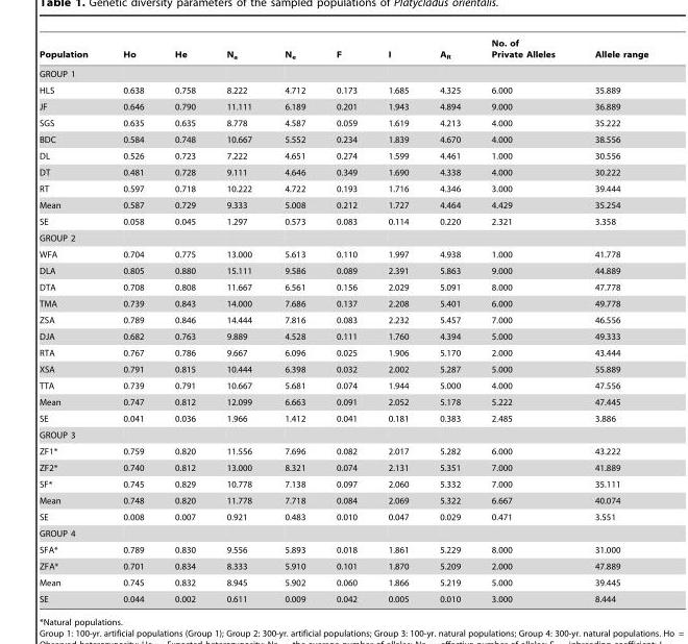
<table><thead><tr><td>Population</td><td>Ho</td><td>He</td><td>N<sub>a</sub></td><td>N<sub>e</sub></td><td>F</td><td>I</td><td>A<sub>R</sub></td><td>No. of Private Alleles</td><td>Allele range</td></tr></thead><tbody><tr><td colspan="10">GROUP 1</td></tr><tr><td>HLS</td><td>0.638</td><td>0.758</td><td>8.222</td><td>4.712</td><td>0.173</td><td>1.685</td><td>4.325</td><td>6.000</td><td>35.889</td></tr><tr><td>JF</td><td>0.646</td><td>0.790</td><td>11.111</td><td>6.189</td><td>0.201</td><td>1.943</td><td>4.894</td><td>9.000</td><td>36.889</td></tr><tr><td>SGS</td><td>0.635</td><td>0.635</td><td>8.778</td><td>4.587</td><td>0.059</td><td>1.619</td><td>4.213</td><td>4.000</td><td>35.222</td></tr><tr><td>BDC</td><td>0.584</td><td>0.748</td><td>10.667</td><td>5.552</td><td>0.234</td><td>1.839</td><td>4.670</td><td>4.000</td><td>38.556</td></tr><tr><td>DL</td><td>0.526</td><td>0.723</td><td>7.222</td><td>4.651</td><td>0.274</td><td>1.599</td><td>4.461</td><td>1.000</td><td>30.556</td></tr><tr><td>DT</td><td>0.481</td><td>0.728</td><td>9.111</td><td>4.646</td><td>0.349</td><td>1.690</td><td>4.338</td><td>4.000</td><td>30.222</td></tr><tr><td>RT</td><td>0.597</td><td>0.718</td><td>10.222</td><td>4.722</td><td>0.193</td><td>1.716</td><td>4.346</td><td>3.000</td><td>39.444</td></tr><tr><td>Mean</td><td>0.587</td><td>0.729</td><td>9.333</td><td>5.008</td><td>0.212</td><td>1.727</td><td>4.464</td><td>4.429</td><td>35.254</td></tr><tr><td>SE</td><td>0.058</td><td>0.045</td><td>1.297</td><td>0.573</td><td>0.083</td><td>0.114</td><td>0.220</td><td>2.321</td><td>3.358</td></tr><tr><td colspan="10">GROUP 2</td></tr><tr><td>WFA</td><td>0.704</td><td>0.775</td><td>13.000</td><td>5.613</td><td>0.110</td><td>1.997</td><td>4.938</td><td>1.000</td><td>41.778</td></tr><tr><td>DLA</td><td>0.805</td><td>0.880</td><td>15.111</td><td>9.586</td><td>0.089</td><td>2.391</td><td>5.863</td><td>9.000</td><td>44.889</td></tr><tr><td>DTA</td><td>0.708</td><td>0.808</td><td>11.667</td><td>6.561</td><td>0.156</td><td>2.029</td><td>5.091</td><td>8.000</td><td>47.778</td></tr><tr><td>TMA</td><td>0.739</td><td>0.843</td><td>14.000</td><td>7.686</td><td>0.137</td><td>2.208</td><td>5.401</td><td>6.000</td><td>49.778</td></tr><tr><td>ZSA</td><td>0.789</td><td>0.846</td><td>14.444</td><td>7.816</td><td>0.083</td><td>2.232</td><td>5.457</td><td>7.000</td><td>46.556</td></tr><tr><td>DJA</td><td>0.682</td><td>0.763</td><td>9.889</td><td>4.528</td><td>0.111</td><td>1.760</td><td>4.394</td><td>5.000</td><td>49.333</td></tr><tr><td>RTA</td><td>0.767</td><td>0.786</td><td>9.667</td><td>6.096</td><td>0.025</td><td>1.906</td><td>5.170</td><td>2.000</td><td>43.444</td></tr><tr><td>XSA</td><td>0.791</td><td>0.815</td><td>10.444</td><td>6.398</td><td>0.032</td><td>2.002</td><td>5.287</td><td>5.000</td><td>55.889</td></tr><tr><td>TTA</td><td>0.739</td><td>0.791</td><td>10.667</td><td>5.681</td><td>0.074</td><td>1.944</td><td>5.000</td><td>4.000</td><td>47.556</td></tr><tr><td>Mean</td><td>0.747</td><td>0.812</td><td>12.099</td><td>6.663</td><td>0.091</td><td>2.052</td><td>5.178</td><td>5.222</td><td>47.445</td></tr><tr><td>SE</td><td>0.041</td><td>0.036</td><td>1.966</td><td>1.412</td><td>0.041</td><td>0.181</td><td>0.383</td><td>2.485</td><td>3.886</td></tr><tr><td colspan="10">GROUP 3</td></tr><tr><td>ZF1*</td><td>0.759</td><td>0.820</td><td>11.556</td><td>7.696</td><td>0.082</td><td>2.017</td><td>5.282</td><td>6.000</td><td>43.222</td></tr><tr><td>ZF2*</td><td>0.740</td><td>0.812</td><td>13.000</td><td>8.321</td><td>0.074</td><td>2.131</td><td>5.351</td><td>7.000</td><td>41.889</td></tr><tr><td>SF*</td><td>0.745</td><td>0.829</td><td>10.778</td><td>7.138</td><td>0.097</td><td>2.060</td><td>5.332</td><td>7.000</td><td>35.111</td></tr><tr><td>Mean</td><td>0.748</td><td>0.820</td><td>11.778</td><td>7.718</td><td>0.084</td><td>2.069</td><td>5.322</td><td>6.667</td><td>40.074</td></tr><tr><td>SE</td><td>0.008</td><td>0.007</td><td>0.921</td><td>0.483</td><td>0.010</td><td>0.047</td><td>0.029</td><td>0.471</td><td>3.551</td></tr><tr><td colspan="10">GROUP 4</td></tr><tr><td>SFA*</td><td>0.789</td><td>0.830</td><td>9.556</td><td>5.893</td><td>0.018</td><td>1.861</td><td>5.229</td><td>8.000</td><td>31.000</td></tr><tr><td>ZFA*</td><td>0.701</td><td>0.834</td><td>8.333</td><td>5.910</td><td>0.101</td><td>1.870</td><td>5.209</td><td>2.000</td><td>47.889</td></tr><tr><td>Mean</td><td>0.745</td><td>0.832</td><td>8.945</td><td>5.902</td><td>0.060</td><td>1.866</td><td>5.219</td><td>5.000</td><td>39.445</td></tr><tr><td>SE</td><td>0.044</td><td>0.002</td><td>0.611</td><td>0.009</td><td>0.042</td><td>0.005</td><td>0.010</td><td>3.000</td><td>8.444</td></tr></tbody></table>